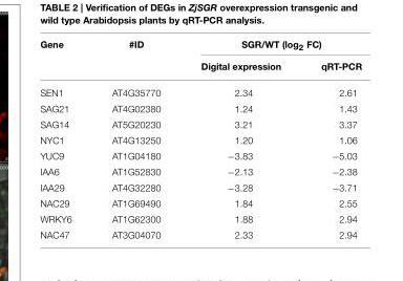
<table><thead><tr><td rowspan="2">Gene</td><td rowspan="2">#ID</td><td colspan="2">SGR/WT (log<sub>2</sub> FC)</td></tr><tr><td>Digital expression</td><td>qRT-PCR</td></tr></thead><tbody><tr><td>SEN1</td><td>AT4G35770</td><td>2.34</td><td>2.61</td></tr><tr><td>SAG21</td><td>AT4G02380</td><td>1.24</td><td>1.43</td></tr><tr><td>SAG14</td><td>AT5G20230</td><td>3.21</td><td>3.37</td></tr><tr><td>NYC1</td><td>AT4G13250</td><td>1.20</td><td>1.06</td></tr><tr><td>YUC9</td><td>AT1G04180</td><td>−3.83</td><td>−5.03</td></tr><tr><td>IAA6</td><td>AT1G52830</td><td>−2.13</td><td>−2.38</td></tr><tr><td>IAA29</td><td>AT4G32280</td><td>−3.28</td><td>−3.71</td></tr><tr><td>NAC29</td><td>AT1G69490</td><td>1.84</td><td>2.55</td></tr><tr><td>WRKY6</td><td>AT1G62300</td><td>1.88</td><td>2.94</td></tr><tr><td>NAC47</td><td>AT3G04070</td><td>2.33</td><td>2.94</td></tr></tbody></table>